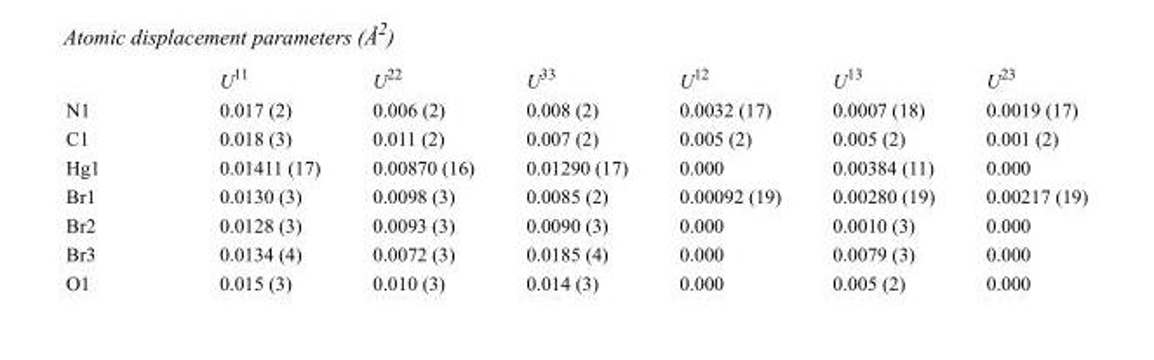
<table><thead><tr><td></td><td>U<sup>11</sup></td><td>U<sup>22</sup></td><td>U<sup>33</sup></td><td>U<sup>12</sup></td><td>U<sup>13</sup></td><td>U<sup>23</sup></td></tr></thead><tbody><tr><td>N1</td><td>0.017 (2)</td><td>0.006 (2)</td><td>0.008 (2)</td><td>0.0032 (17)</td><td>0.0007 (18)</td><td>0.0019 (17)</td></tr><tr><td>C1</td><td>0.018 (3)</td><td>0.011 (2)</td><td>0.007 (2)</td><td>0.005 (2)</td><td>0.005 (2)</td><td>0.001 (2)</td></tr><tr><td>Hg1</td><td>0.01411 (17)</td><td>0.00870 (16)</td><td>0.01290 (17)</td><td>0.000</td><td>0.00384 (11)</td><td>0.000</td></tr><tr><td>Br1</td><td>0.0130 (3)</td><td>0.0098 (3)</td><td>0.0085 (2)</td><td>0.00092 (19)</td><td>0.00280 (19)</td><td>0.00217 (19)</td></tr><tr><td>Br2</td><td>0.0128 (3)</td><td>0.0093 (3)</td><td>0.0090 (3)</td><td>0.000</td><td>0.0010 (3)</td><td>0.000</td></tr><tr><td>Br3</td><td>0.0134 (4)</td><td>0.0072 (3)</td><td>0.0185 (4)</td><td>0.000</td><td>0.0079 (3)</td><td>0.000</td></tr><tr><td>O1</td><td>0.015 (3)</td><td>0.010 (3)</td><td>0.014 (3)</td><td>0.000</td><td>0.005 (2)</td><td>0.000</td></tr></tbody></table>